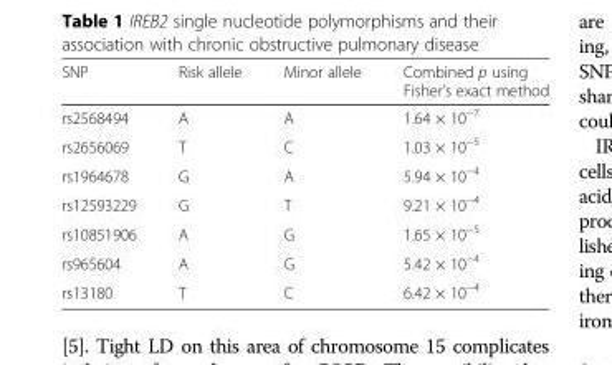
<table><thead><tr><td>SNP</td><td>Risk allele</td><td>Minor allele</td><td>Combined p using Fisher’s exact method</td></tr></thead><tbody><tr><td>rs2568494</td><td>A</td><td>A</td><td>1.64 × 10<sup>−7</sup></td></tr><tr><td>rs2656069</td><td>T</td><td>C</td><td>1.03 × 10<sup>−5</sup></td></tr><tr><td>rs1964678</td><td>G</td><td>A</td><td>5.94 × 10<sup>−4</sup></td></tr><tr><td>rs12593229</td><td>G</td><td>T</td><td>9.21 × 10<sup>−4</sup></td></tr><tr><td>rs10851906</td><td>A</td><td>G</td><td>1.65 × 10<sup>−5</sup></td></tr><tr><td>rs965604</td><td>A</td><td>G</td><td>5.42 × 10<sup>−4</sup></td></tr><tr><td>rs13180</td><td>T</td><td>C</td><td>6.42 × 10<sup>−4</sup></td></tr></tbody></table>